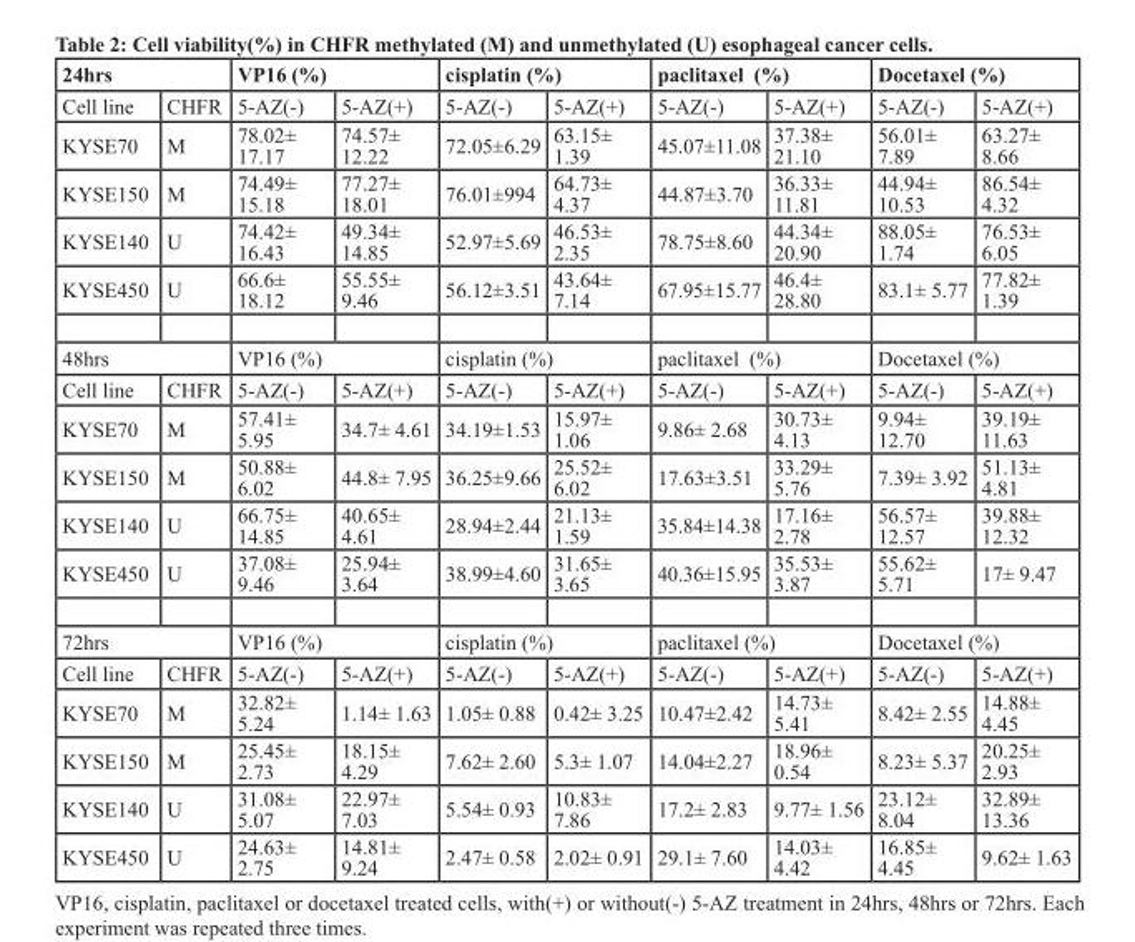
<table><thead><tr><td colspan="2">24hrs</td><td colspan="2">VP16 (%)</td><td colspan="2">cisplatin (%)</td><td colspan="2">paclitaxel (%)</td><td colspan="2">Docetaxel (%)</td></tr><tr><td>Cell line</td><td>CHFR</td><td>5-AZ(-)</td><td>5-AZ(+)</td><td>5-AZ(-)</td><td>5-AZ(+)</td><td>5-AZ(-)</td><td>5-AZ(+)</td><td>5-AZ(-)</td><td>5-AZ(+)</td></tr></thead><tbody><tr><td>KYSE70</td><td>M</td><td>78.02± 17.17</td><td>74.57± 12.22</td><td>72.05±6.29</td><td>63.15± 1.39</td><td>45.07±11.08</td><td>37.38± 21.10</td><td>56.01± 7.89</td><td>63.27± 8.66</td></tr><tr><td>KYSE150</td><td>M</td><td>74.49± 15.18</td><td>77.27± 18.01</td><td>76.01±994</td><td>64.73± 4.37</td><td>44.87±3.70</td><td>36.33± 11.81</td><td>44.94± 10.53</td><td>86.54± 4.32</td></tr><tr><td>KYSE140</td><td>U</td><td>74.42± 16.43</td><td>49.34± 14.85</td><td>52.97±5.69</td><td>46.53± 2.35</td><td>78.75±8.60</td><td>44.34± 20.90</td><td>88.05± 1.74</td><td>76.53± 6.05</td></tr><tr><td>KYSE450</td><td>U</td><td>66.6± 18.12</td><td>55.55± 9.46</td><td>56.12±3.51</td><td>43.64± 7.14</td><td>67.95±15.77</td><td>46.4± 28.80</td><td>83.1± 5.77</td><td>77.82± 1.39</td></tr><tr><td colspan="2">48hrs</td><td colspan="2">VP16 (%)</td><td colspan="2">cisplatin (%)</td><td colspan="2">paclitaxel (%)</td><td colspan="2">Docetaxel (%)</td></tr><tr><td>Cell line</td><td>CHFR</td><td>5-AZ(-)</td><td>5-AZ(+)</td><td>5-AZ(-)</td><td>5-AZ(+)</td><td>5-AZ(-)</td><td>5-AZ(+)</td><td>5-AZ(-)</td><td>5-AZ(+)</td></tr><tr><td>KYSE70</td><td>M</td><td>57.41± 5.95</td><td>34.7± 4.61</td><td>34.19±1.53</td><td>15.97± 1.06</td><td>9.86± 2.68</td><td>30.73± 4.13</td><td>9.94± 12.70</td><td>39.19± 11.63</td></tr><tr><td>KYSE150</td><td>M</td><td>50.88± 6.02</td><td>44.8± 7.95</td><td>36.25±9.66</td><td>25.52± 6.02</td><td>17.63±3.51</td><td>33.29± 5.76</td><td>7.39± 3.92</td><td>51.13± 4.81</td></tr><tr><td>KYSE140</td><td>U</td><td>66.75± 14.85</td><td>40.65± 4.61</td><td>28.94±2.44</td><td>21.13± 1.59</td><td>35.84±14.38</td><td>17.16± 2.78</td><td>56.57± 12.57</td><td>39.88± 12.32</td></tr><tr><td>KYSE450</td><td>U</td><td>37.08± 9.46</td><td>25.94± 3.64</td><td>38.99±4.60</td><td>31.65± 3.65</td><td>40.36±15.95</td><td>35.53± 3.87</td><td>55.62± 5.71</td><td>17± 9.47</td></tr><tr><td colspan="2">72hrs</td><td colspan="2">VP16 (%)</td><td colspan="2">cisplatin (%)</td><td colspan="2">paclitaxel (%)</td><td colspan="2">Docetaxel (%)</td></tr><tr><td>Cell line</td><td>CHFR</td><td>5-AZ(-)</td><td>5-AZ(+)</td><td>5-AZ(-)</td><td>5-AZ(+)</td><td>5-AZ(-)</td><td>5-AZ(+)</td><td>5-AZ(-)</td><td>5-AZ(+)</td></tr><tr><td>KYSE70</td><td>M</td><td>32.82± 5.24</td><td>1.14± 1.63</td><td>1.05± 0.88</td><td>0.42± 3.25</td><td>10.47±2.42</td><td>14.73± 5.41</td><td>8.42± 2.55</td><td>14.88± 4.45</td></tr><tr><td>KYSE150</td><td>M</td><td>25.45± 2.73</td><td>18.15± 4.29</td><td>7.62± 2.60</td><td>5.3± 1.07</td><td>14.04±2.27</td><td>18.96± 0.54</td><td>8.23± 5.37</td><td>20.25± 2.93</td></tr><tr><td>KYSE140</td><td>U</td><td>31.08± 5.07</td><td>22.97± 7.03</td><td>5.54± 0.93</td><td>10.83± 7.86</td><td>17.2± 2.83</td><td>9.77± 1.56</td><td>23.12± 8.04</td><td>32.89± 13.36</td></tr><tr><td>KYSE450</td><td>U</td><td>24.63± 2.75</td><td>14.81± 9.24</td><td>2.47± 0.58</td><td>2.02± 0.91</td><td>29.1± 7.60</td><td>14.03± 4.42</td><td>16.85± 4.45</td><td>9.62± 1.63</td></tr></tbody></table>